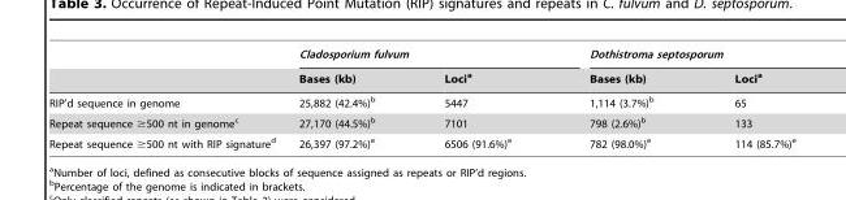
<table><thead><tr><td rowspan="2"></td><td colspan="2">Cladosporium fulvum</td><td colspan="2">Dothistroma septosporum</td></tr><tr><td>Bases (kb)</td><td>Loci<sup>a</sup></td><td>Bases (kb)</td><td>Loci<sup>a</sup></td></tr></thead><tbody><tr><td>RIP’d sequence in genome</td><td>25,882 (42.4%)<sup>b</sup></td><td>5447</td><td>1,114 (3.7%)<sup>b</sup></td><td>65</td></tr><tr><td>Repeat sequence ≥500 nt in genome<sup>c</sup></td><td>27,170 (44.5%)<sup>b</sup></td><td>7101</td><td>798 (2.6%)<sup>b</sup></td><td>133</td></tr><tr><td>Repeat sequence ≥500 nt with RIP signature<sup>d</sup></td><td>26,397 (97.2%)<sup>e</sup></td><td>6506 (91.6%)<sup>e</sup></td><td>782 (98.0%)<sup>e</sup></td><td>114 (85.7%)<sup>e</sup></td></tr></tbody></table>